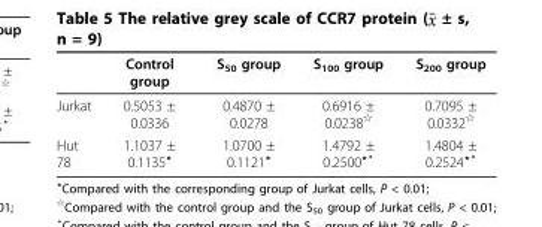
<table><thead><tr><td></td><td>Control group</td><td>S<sub>50</sub> group</td><td>S<sub>100</sub> group</td><td>S<sub>200</sub> group</td></tr></thead><tbody><tr><td>Jurkat</td><td>0.5053 ± 0.0336</td><td>0.4870 ± 0.0278</td><td>0.6916 ± 0.0238<sup>✩</sup></td><td>0.7095 ± 0.0332<sup>✩</sup></td></tr><tr><td>Hut 78</td><td>1.1037 ± 0.1135<sup>⋆</sup></td><td>1.0700 ± 0.1121<sup>⋆</sup></td><td>1.4792 ± 0.2500<sup>⋆▴</sup></td><td>1.4804 ± 0.2524<sup>⋆▴</sup></td></tr></tbody></table>